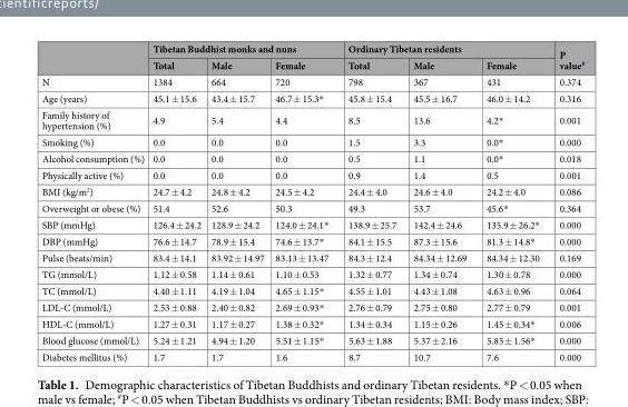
<table><thead><tr><td rowspan="2"></td><td colspan="3">Tibetan Buddhist monks and nuns</td><td colspan="3">Ordinary Tibetan residents</td><td rowspan="2">P value<sup>#</sup></td></tr><tr><td>Total</td><td>Male</td><td>Female</td><td>Total</td><td>Male</td><td>Female</td></tr></thead><tbody><tr><td>N</td><td>1384</td><td>664</td><td>720</td><td>798</td><td>367</td><td>431</td><td>0.374</td></tr><tr><td>Age (years)</td><td>45.1 ± 15.6</td><td>43.4 ± 15.7</td><td>46.7 ± 15.3*</td><td>45.8 ± 15.4</td><td>45.5 ± 16.7</td><td>46.0 ± 14.2</td><td>0.316</td></tr><tr><td>Family history of hypertension (%)</td><td>4.9</td><td>5.4</td><td>4.4</td><td>8.5</td><td>13.6</td><td>4.2*</td><td>0.001</td></tr><tr><td>Smoking (%)</td><td>0.0</td><td>0.0</td><td>0.0</td><td>1.5</td><td>3.3</td><td>0.0*</td><td>0.000</td></tr><tr><td>Alcohol consumption (%)</td><td>0.0</td><td>0.0</td><td>0.0</td><td>0.5</td><td>1.1</td><td>0.0*</td><td>0.018</td></tr><tr><td>Physically active (%)</td><td>0.0</td><td>0.0</td><td>0.0</td><td>0.9</td><td>1.4</td><td>0.5</td><td>0.001</td></tr><tr><td>BMI (kg/m<sup>2</sup>)</td><td>24.7 ± 4.2</td><td>24.8 ± 4.2</td><td>24.5 ± 4.2</td><td>24.4 ± 4.0</td><td>24.6 ± 4.0</td><td>24.2 ± 4.0</td><td>0.086</td></tr><tr><td>Overweight or obese (%)</td><td>51.4</td><td>52.6</td><td>50.3</td><td>49.3</td><td>53.7</td><td>45.6*</td><td>0.364</td></tr><tr><td>SBP (mmHg)</td><td>126.4 ± 24.2</td><td>128.9 ± 24.2</td><td>124.0 ± 24.1*</td><td>138.9 ± 25.7</td><td>142.4 ± 24.6</td><td>135.9 ± 26.2*</td><td>0.000</td></tr><tr><td>DBP (mmHg)</td><td>76.6 ± 14.7</td><td>78.9 ± 15.4</td><td>74.6 ± 13.7*</td><td>84.1 ± 15.5</td><td>87.3 ± 15.6</td><td>81.3 ± 14.8*</td><td>0.000</td></tr><tr><td>Pulse (beats/min)</td><td>83.4 ± 14.1</td><td>83.92 ± 14.97</td><td>83.13 ± 13.47</td><td>84.3 ± 12.4</td><td>84.34 ± 12.69</td><td>84.34 ± 12.30</td><td>0.169</td></tr><tr><td>TG (mmol/L)</td><td>1.12 ± 0.58</td><td>1.14 ± 0.61</td><td>1.10 ± 0.53</td><td>1.32 ± 0.77</td><td>1.34 ± 0.74</td><td>1.30 ± 0.78</td><td>0.000</td></tr><tr><td>TC (mmol/L)</td><td>4.40 ± 1.11</td><td>4.19 ± 1.04</td><td>4.65 ± 1.15*</td><td>4.55 ± 1.01</td><td>4.43 ± 1.08</td><td>4.63 ± 0.96</td><td>0.064</td></tr><tr><td>LDL-C (mmol/L)</td><td>2.53 ± 0.88</td><td>2.40 ± 0.82</td><td>2.69 ± 0.93*</td><td>2.76 ± 0.79</td><td>2.75 ± 0.80</td><td>2.77 ± 0.79</td><td>0.001</td></tr><tr><td>HDL-C (mmol/L)</td><td>1.27 ± 0.31</td><td>1.17 ± 0.27</td><td>1.38 ± 0.32*</td><td>1.34 ± 0.34</td><td>1.15 ± 0.26</td><td>1.45 ± 0.34*</td><td>0.006</td></tr><tr><td>Blood glucose (mmol/L)</td><td>5.24 ± 1.21</td><td>4.94 ± 1.20</td><td>5.51 ± 1.15*</td><td>5.63 ± 1.88</td><td>5.37 ± 2.16</td><td>5.85 ± 1.56*</td><td>0.000</td></tr><tr><td>Diabetes mellitus (%)</td><td>1.7</td><td>1.7</td><td>1.6</td><td>8.7</td><td>10.7</td><td>7.6</td><td>0.000</td></tr></tbody></table>